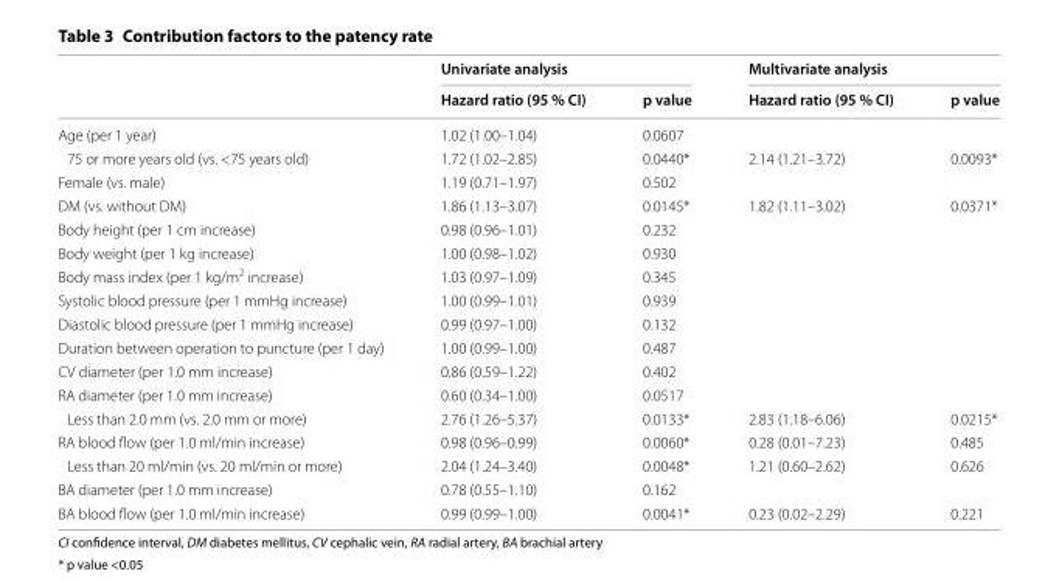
<table><thead><tr><td rowspan="2"></td><td colspan="2">Univariate analysis</td><td colspan="2">Multivariate analysis</td></tr><tr><td>Hazard ratio (95 % CI)</td><td>p value</td><td>Hazard ratio (95 % CI)</td><td>p value</td></tr></thead><tbody><tr><td>Age (per 1 year)</td><td>1.02 (1.00–1.04)</td><td>0.0607</td><td></td><td></td></tr><tr><td>75 or more years old (vs. &lt;75 years old)</td><td>1.72 (1.02–2.85)</td><td>0.0440*</td><td>2.14 (1.21–3.72)</td><td>0.0093*</td></tr><tr><td>Female (vs. male)</td><td>1.19 (0.71–1.97)</td><td>0.502</td><td></td><td></td></tr><tr><td>DM (vs. without DM)</td><td>1.86 (1.13–3.07)</td><td>0.0145*</td><td>1.82 (1.11–3.02)</td><td>0.0371*</td></tr><tr><td>Body height (per 1 cm increase)</td><td>0.98 (0.96–1.01)</td><td>0.232</td><td></td><td></td></tr><tr><td>Body weight (per 1 kg increase)</td><td>1.00 (0.98–1.02)</td><td>0.930</td><td></td><td></td></tr><tr><td>Body mass index (per 1 kg/m<sup>2</sup> increase)</td><td>1.03 (0.97–1.09)</td><td>0.345</td><td></td><td></td></tr><tr><td>Systolic blood pressure (per 1 mmHg increase)</td><td>1.00 (0.99–1.01)</td><td>0.939</td><td></td><td></td></tr><tr><td>Diastolic blood pressure (per 1 mmHg increase)</td><td>0.99 (0.97–1.00)</td><td>0.132</td><td></td><td></td></tr><tr><td>Duration between operation to puncture (per 1 day)</td><td>1.00 (0.99–1.00)</td><td>0.487</td><td></td><td></td></tr><tr><td>CV diameter (per 1.0 mm increase)</td><td>0.86 (0.59–1.22)</td><td>0.402</td><td></td><td></td></tr><tr><td>RA diameter (per 1.0 mm increase)</td><td>0.60 (0.34–1.00)</td><td>0.0517</td><td></td><td></td></tr><tr><td>Less than 2.0 mm (vs. 2.0 mm or more)</td><td>2.76 (1.26–5.37)</td><td>0.0133*</td><td>2.83 (1.18–6.06)</td><td>0.0215*</td></tr><tr><td>RA blood flow (per 1.0 ml/min increase)</td><td>0.98 (0.96–0.99)</td><td>0.0060*</td><td>0.28 (0.01–7.23)</td><td>0.485</td></tr><tr><td>Less than 20 ml/min (vs. 20 ml/min or more)</td><td>2.04 (1.24–3.40)</td><td>0.0048*</td><td>1.21 (0.60–2.62)</td><td>0.626</td></tr><tr><td>BA diameter (per 1.0 mm increase)</td><td>0.78 (0.55–1.10)</td><td>0.162</td><td></td><td></td></tr><tr><td>BA blood flow (per 1.0 ml/min increase)</td><td>0.99 (0.99–1.00)</td><td>0.0041*</td><td>0.23 (0.02–2.29)</td><td>0.221</td></tr></tbody></table>